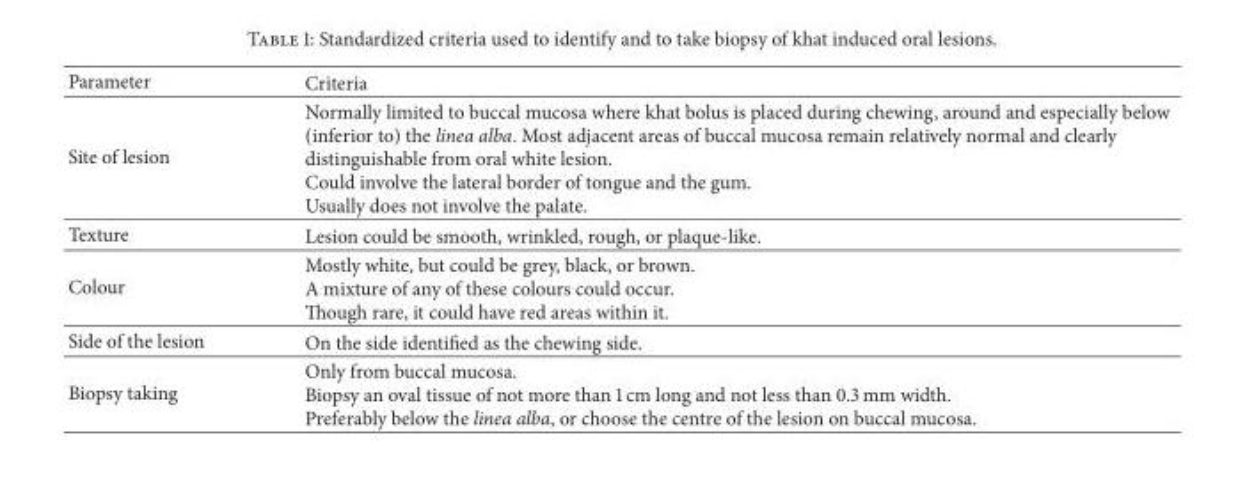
<table><thead><tr><td>Parameter</td><td>Criteria</td></tr></thead><tbody><tr><td>Site of lesion</td><td>Normally limited to buccal mucosa where khat bolus is placed during chewing, around and especially below (inferior to) the linea alba. Most adjacent areas of buccal mucosa remain relatively normal and clearly distinguishable from oral white lesion. Could involve the lateral border of tongue and the gum. Usually does not involve the palate.</td></tr><tr><td>Texture</td><td>Lesion could be smooth, wrinkled, rough, or plaque-like.</td></tr><tr><td>Colour</td><td>Mostly white, but could be grey, black, or brown. A mixture of any of these colours could occur. Though rare, it could have red areas within it.</td></tr><tr><td>Side of the lesion</td><td>On the side identified as the chewing side.</td></tr><tr><td>Biopsy taking</td><td>Only from buccal mucosa. Biopsy an oval tissue of not more than 1 cm long and not less than 0.3 mm width. Preferably below the linea alba, or choose the centre of the lesion on buccal mucosa.</td></tr></tbody></table>